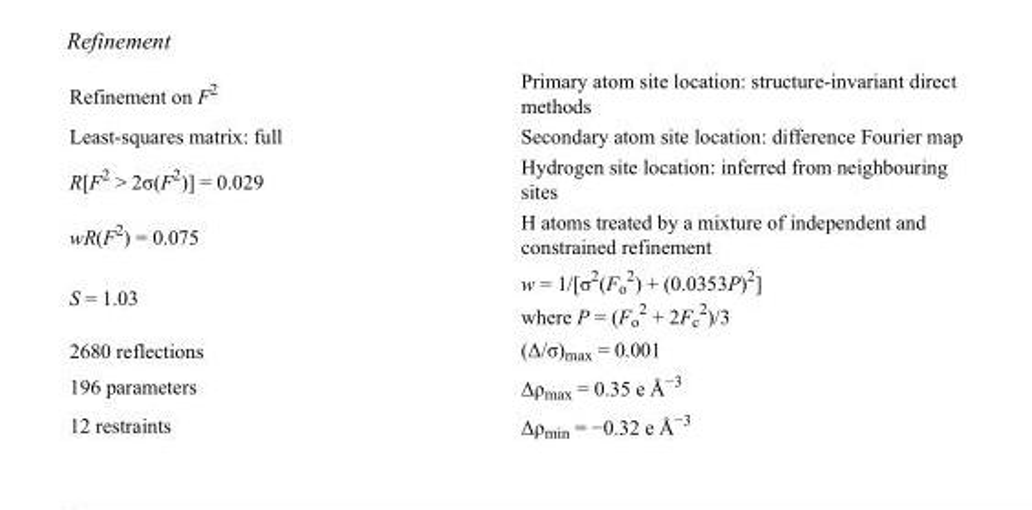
<table><tbody><tr><td>Refinement on F<sup>2</sup></td><td>Primary atom site location: structure-invariant direct methods</td></tr><tr><td>Least-squares matrix: full</td><td>Secondary atom site location: difference Fourier map</td></tr><tr><td>R[F<sup>2</sup> &gt; 2σ(F<sup>2</sup>)] = 0.029</td><td>Hydrogen site location: inferred from neighbouring sites</td></tr><tr><td>wR(F<sup>2</sup>) = 0.075</td><td>H atoms treated by a mixture of independent and constrained refinement</td></tr><tr><td>S = 1.03</td><td>w = 1/[σ<sup>2</sup>(F<sub>o</sub> <sup>2</sup>) + (0.0353P)<sup>2</sup>] where P = (F<sub>o</sub> <sup>2</sup> + 2F<sub>c</sub> <sup>2</sup>)/3</td></tr><tr><td>2680 reflections</td><td>(Δ/σ)<sub>max</sub> = 0.001</td></tr><tr><td>196 parameters</td><td>Δρ<sub>max</sub> = 0.35 e Å<sup>−3</sup></td></tr><tr><td>12 restraints</td><td>Δρ<sub>min</sub> = −0.32 e Å<sup>−3</sup></td></tr></tbody></table>